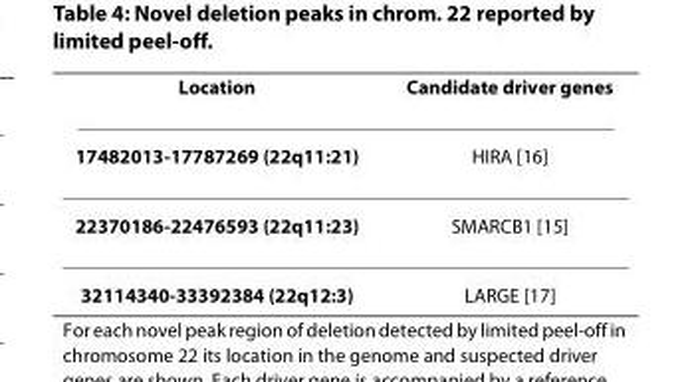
<table><thead><tr><td>Location</td><td>Candidate driver genes</td></tr></thead><tbody><tr><td>17482013-17787269 (22q11:21)</td><td>HIRA [16]</td></tr><tr><td>22370186-22476593 (22q11:23)</td><td>SMARCB1 [15]</td></tr><tr><td>32114340-33392384 (22q12:3)</td><td>LARGE [17]</td></tr></tbody></table>